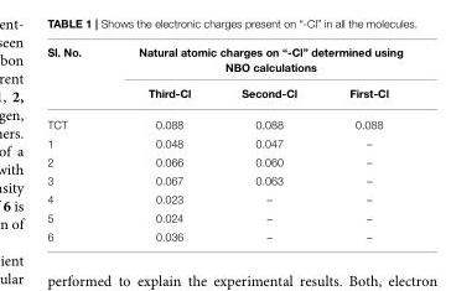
<table><thead><tr><td rowspan="2">Sl. No.</td><td colspan="3">Natural atomic charges on “-Cl” determined using NBO calculations</td></tr><tr><td>Third-Cl</td><td>Second-Cl</td><td>First-Cl</td></tr></thead><tbody><tr><td>TCT</td><td>0.088</td><td>0.088</td><td>0.088</td></tr><tr><td>1</td><td>0.048</td><td>0.047</td><td>–</td></tr><tr><td>2</td><td>0.066</td><td>0.060</td><td>–</td></tr><tr><td>3</td><td>0.067</td><td>0.063</td><td>–</td></tr><tr><td>4</td><td>0.023</td><td>–</td><td>–</td></tr><tr><td>5</td><td>0.024</td><td>–</td><td>–</td></tr><tr><td>6</td><td>0.036</td><td>–</td><td>–</td></tr></tbody></table>